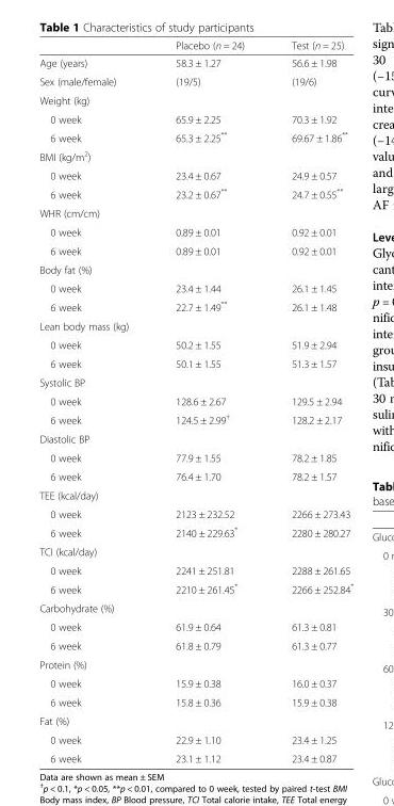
<table><thead><tr><td></td><td>Placebo (n = 24)</td><td>Test (n = 25)</td></tr></thead><tbody><tr><td>Age (years)</td><td>58.3 ± 1.27</td><td>56.6 ± 1.98</td></tr><tr><td>Sex (male/female)</td><td>(19/5)</td><td>(19/6)</td></tr><tr><td colspan="3">Weight (kg)</td></tr><tr><td>0 week</td><td>65.9 ± 2.25</td><td>70.3 ± 1.92</td></tr><tr><td>6 week</td><td>65.3 ± 2.25**</td><td>69.67 ± 1.86**</td></tr><tr><td colspan="3">BMI (kg/m<sup>2</sup>)</td></tr><tr><td>0 week</td><td>23.4 ± 0.67</td><td>24.9 ± 0.57</td></tr><tr><td>6 week</td><td>23.2 ± 0.67**</td><td>24.7 ± 0.55**</td></tr><tr><td colspan="3">WHR (cm/cm)</td></tr><tr><td>0 week</td><td>0.89 ± 0.01</td><td>0.92 ± 0.01</td></tr><tr><td>6 week</td><td>0.89 ± 0.01</td><td>0.92 ± 0.01</td></tr><tr><td colspan="3">Body fat (%)</td></tr><tr><td>0 week</td><td>23.4 ± 1.44</td><td>26.1 ± 1.45</td></tr><tr><td>6 week</td><td>22.7 ± 1.49**</td><td>26.1 ± 1.48</td></tr><tr><td colspan="3">Lean body mass (kg)</td></tr><tr><td>0 week</td><td>50.2 ± 1.55</td><td>51.9 ± 2.94</td></tr><tr><td>6 week</td><td>50.1 ± 1.55</td><td>51.3 ± 1.57</td></tr><tr><td colspan="3">Systolic BP</td></tr><tr><td>0 week</td><td>128.6 ± 2.67</td><td>129.5 ± 2.94</td></tr><tr><td>6 week</td><td>124.5 ± 2.99<sup>†</sup></td><td>128.2 ± 2.17</td></tr><tr><td colspan="3">Diastolic BP</td></tr><tr><td>0 week</td><td>77.9 ± 1.55</td><td>78.2 ± 1.85</td></tr><tr><td>6 week</td><td>76.4 ± 1.70</td><td>78.2 ± 1.57</td></tr><tr><td colspan="3">TEE (kcal/day)</td></tr><tr><td>0 week</td><td>2123 ± 232.52</td><td>2266 ± 273.43</td></tr><tr><td>6 week</td><td>2140 ± 229.63*</td><td>2280 ± 280.27</td></tr><tr><td colspan="3">TCI (kcal/day)</td></tr><tr><td>0 week</td><td>2241 ± 251.81</td><td>2288 ± 261.65</td></tr><tr><td>6 week</td><td>2210 ± 261.45*</td><td>2266 ± 252.84*</td></tr><tr><td colspan="3">Carbohydrate (%)</td></tr><tr><td>0 week</td><td>61.9 ± 0.64</td><td>61.3 ± 0.81</td></tr><tr><td>6 week</td><td>61.8 ± 0.79</td><td>61.3 ± 0.77</td></tr><tr><td colspan="3">Protein (%)</td></tr><tr><td>0 week</td><td>15.9 ± 0.38</td><td>16.0 ± 0.37</td></tr><tr><td>6 week</td><td>15.8 ± 0.36</td><td>15.9 ± 0.38</td></tr><tr><td colspan="3">Fat (%)</td></tr><tr><td>0 week</td><td>22.9 ± 1.10</td><td>23.4 ± 1.25</td></tr><tr><td>6 week</td><td>23.1 ± 1.12</td><td>23.4 ± 0.87</td></tr></tbody></table>